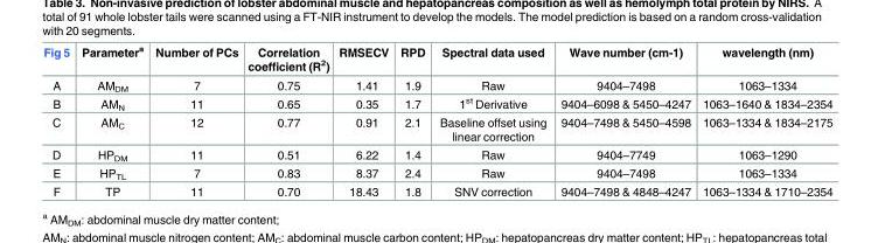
<table><thead><tr><td>Fig 5</td><td>Parameter<sup>a</sup></td><td>Number of PCs</td><td>Correlation coefficient (R<sup>2</sup>)</td><td>RMSECV</td><td>RPD</td><td>Spectral data used</td><td>Wave number (cm-1)</td><td>wavelength (nm)</td></tr></thead><tbody><tr><td>A</td><td>AM<sub>DM</sub></td><td>7</td><td>0.75</td><td>1.41</td><td>1.9</td><td>Raw</td><td>9404–7498</td><td>1063–1334</td></tr><tr><td>B</td><td>AM<sub>N</sub></td><td>11</td><td>0.65</td><td>0.35</td><td>1.7</td><td>1<sup>st</sup> Derivative</td><td>9404–6098 &amp; 5450–4247</td><td>1063–1640 &amp; 1834–2354</td></tr><tr><td>C</td><td>AM<sub>C</sub></td><td>12</td><td>0.77</td><td>0.91</td><td>2.1</td><td>Baseline offset using linear correction</td><td>9404–7498 &amp; 5450–4598</td><td>1063–1334 &amp; 1834–2175</td></tr><tr><td>D</td><td>HP<sub>DM</sub></td><td>11</td><td>0.51</td><td>6.22</td><td>1.4</td><td>Raw</td><td>9404–7749</td><td>1063–1290</td></tr><tr><td>E</td><td>HP<sub>TL</sub></td><td>7</td><td>0.83</td><td>8.37</td><td>2.4</td><td>Raw</td><td>9404–7498</td><td>1063–1334</td></tr><tr><td>F</td><td>TP</td><td>11</td><td>0.70</td><td>18.43</td><td>1.8</td><td>SNV correction</td><td>9404–7498 &amp; 4848–4247</td><td>1063–1334 &amp; 1710–2354</td></tr></tbody></table>